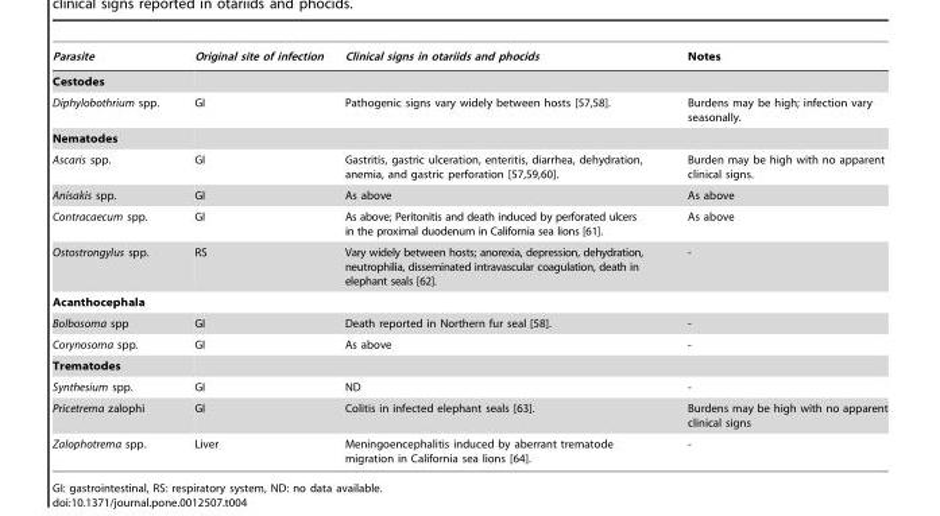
<table><thead><tr><td>Parasite</td><td>Original site of infection</td><td>Clinical signs in otariids and phocids</td><td>Notes</td></tr></thead><tbody><tr><td colspan="4">Cestodes</td></tr><tr><td>Diphylobothrium spp.</td><td>GI</td><td>Pathogenic signs vary widely between hosts [57,58].</td><td>Burdens may be high; infection vary seasonally.</td></tr><tr><td colspan="4">Nematodes</td></tr><tr><td>Ascaris spp.</td><td>GI</td><td>Gastritis, gastric ulceration, enteritis, diarrhea, dehydration, anemia, and gastric perforation [57,59,60].</td><td>Burden may be high with no apparent clinical signs.</td></tr><tr><td>Anisakis spp.</td><td>GI</td><td>As above</td><td>As above</td></tr><tr><td>Contracaecum spp.</td><td>GI</td><td>As above; Peritonitis and death induced by perforated ulcers in the proximal duodenum in California sea lions [61].</td><td>As above</td></tr><tr><td>Ostostrongylus spp.</td><td>RS</td><td>Vary widely between hosts; anorexia, depression, dehydration, neutrophilia, disseminated intravascular coagulation, death in elephant seals [62].</td><td>-</td></tr><tr><td colspan="4">Acanthocephala</td></tr><tr><td>Bolbosoma spp</td><td>GI</td><td>Death reported in Northern fur seal [58].</td><td>-</td></tr><tr><td>Corynosoma spp.</td><td>GI</td><td>As above</td><td>-</td></tr><tr><td colspan="4">Trematodes</td></tr><tr><td>Synthesium spp.</td><td>GI</td><td>ND</td><td>-</td></tr><tr><td>Pricetrema zalophi</td><td>GI</td><td>Colitis in infected elephant seals [63].</td><td>Burdens may be high with no apparent clinical signs</td></tr><tr><td>Zalophotrema spp.</td><td>Liver</td><td>Meningoencephalitis induced by aberrant trematode migration in California sea lions [64].</td><td>-</td></tr></tbody></table>